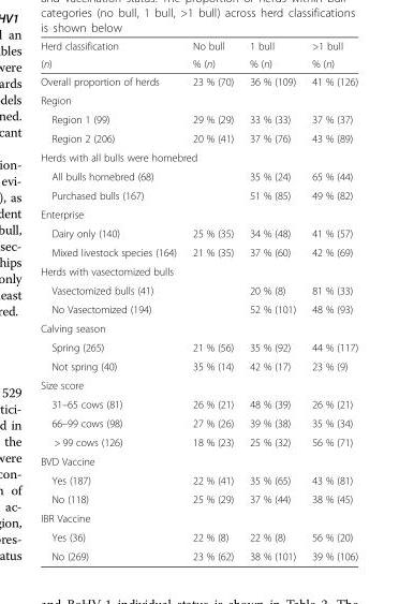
<table><thead><tr><td rowspan="2">Herd classification (n)</td><td rowspan="2">No bull % (n)</td><td rowspan="2">1 bull % (n)</td><td rowspan="2">&gt;1 bull % (n)</td></tr><tr></tr></thead><tbody><tr><td>Overall proportion of herds</td><td>23 % (70)</td><td>36 % (109)</td><td>41 % (126)</td></tr><tr><td colspan="4">Region</td></tr><tr><td>Region 1 (99)</td><td>29 % (29)</td><td>33 % (33)</td><td>37 % (37)</td></tr><tr><td>Region 2 (206)</td><td>20 % (41)</td><td>37 % (76)</td><td>43 % (89)</td></tr><tr><td colspan="4">Herds with all bulls were homebred</td></tr><tr><td>All bulls homebred (68)</td><td></td><td>35 % (24)</td><td>65 % (44)</td></tr><tr><td>Purchased bulls (167)</td><td></td><td>51 % (85)</td><td>49 % (82)</td></tr><tr><td colspan="4">Enterprise</td></tr><tr><td>Dairy only (140)</td><td>25 % (35)</td><td>34 % (48)</td><td>41 % (57)</td></tr><tr><td>Mixed livestock species (164)</td><td>21 % (35)</td><td>37 % (60)</td><td>42 % (69)</td></tr><tr><td colspan="4">Herds with vasectomized bulls</td></tr><tr><td>Vasectomized bulls (41)</td><td></td><td>20 % (8)</td><td>81 % (33)</td></tr><tr><td>No Vasectomized (194)</td><td></td><td>52 % (101)</td><td>48 % (93)</td></tr><tr><td colspan="4">Calving season</td></tr><tr><td>Spring (265)</td><td>21 % (56)</td><td>35 % (92)</td><td>44 % (117)</td></tr><tr><td>Not spring (40)</td><td>35 % (14)</td><td>42 % (17)</td><td>23 % (9)</td></tr><tr><td colspan="4">Size score</td></tr><tr><td>31–65 cows (81)</td><td>26 % (21)</td><td>48 % (39)</td><td>26 % (21)</td></tr><tr><td>66–99 cows (98)</td><td>27 % (26)</td><td>39 % (38)</td><td>35 % (34)</td></tr><tr><td>&gt; 99 cows (126)</td><td>18 % (23)</td><td>25 % (32)</td><td>56 % (71)</td></tr><tr><td colspan="4">BVD Vaccine</td></tr><tr><td>Yes (187)</td><td>22 % (41)</td><td>35 % (65)</td><td>43 % (81)</td></tr><tr><td>No (118)</td><td>25 % (29)</td><td>37 % (44)</td><td>38 % (45)</td></tr><tr><td colspan="4">IBR Vaccine</td></tr><tr><td>Yes (36)</td><td>22 % (8)</td><td>22 % (8)</td><td>56 % (20)</td></tr><tr><td>No (269)</td><td>23 % (62)</td><td>38 % (101)</td><td>39 % (106)</td></tr></tbody></table>